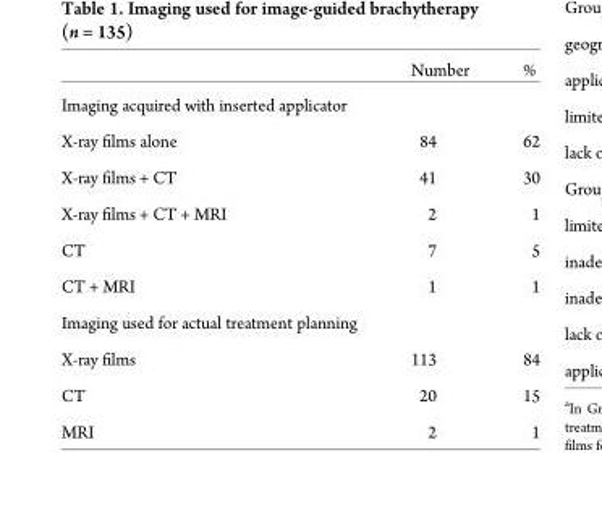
<table><thead><tr><td></td><td>Number</td><td>%</td></tr></thead><tbody><tr><td colspan="3">Imaging acquired with inserted applicator</td></tr><tr><td>X-ray films alone</td><td>84</td><td>62</td></tr><tr><td>X-ray films + CT</td><td>41</td><td>30</td></tr><tr><td>X-ray films + CT + MRI</td><td>2</td><td>1</td></tr><tr><td>CT</td><td>7</td><td>5</td></tr><tr><td>CT + MRI</td><td>1</td><td>1</td></tr><tr><td colspan="3">Imaging used for actual treatment planning</td></tr><tr><td>X-ray films</td><td>113</td><td>84</td></tr><tr><td>CT</td><td>20</td><td>15</td></tr><tr><td>MRI</td><td>2</td><td>1</td></tr></tbody></table>